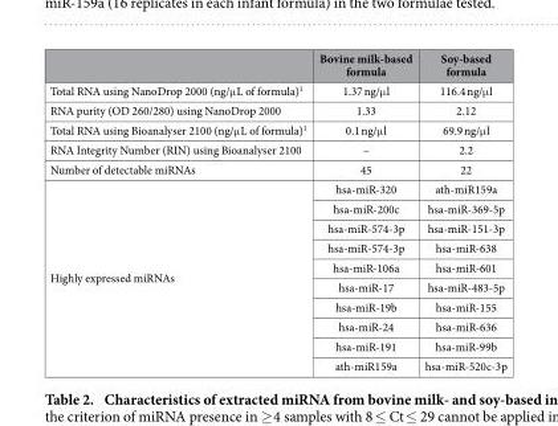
<table><thead><tr><td></td><td>Bovine milk-based formula</td><td>Soy-based formula</td></tr></thead><tbody><tr><td>Total RNA using NanoDrop 2000 (ng/μ L of formula)<sup>1</sup></td><td>1.37 ng/μ l</td><td>116.4 ng/μ l</td></tr><tr><td>RNA purity (OD 260/280) using NanoDrop 2000</td><td>1.33</td><td>2.12</td></tr><tr><td>Total RNA using Bioanalyser 2100 (ng/μ L of formula)<sup>1</sup></td><td>0.1 ng/μ l</td><td>69.9 ng/μ l</td></tr><tr><td>RNA Integrity Number (RIN) using Bioanalyser 2100</td><td>–</td><td>2.2</td></tr><tr><td>Number of detectable miRNAs</td><td>45</td><td>22</td></tr><tr><td rowspan="10">Highly expressed miRNAs</td><td>hsa-miR-320</td><td>ath-miR159a</td></tr><tr><td>hsa-miR-200c</td><td>hsa-miR-369-5p</td></tr><tr><td>hsa-miR-574-3p</td><td>hsa-miR-151-3p</td></tr><tr><td>hsa-miR-574-3p</td><td>hsa-miR-638</td></tr><tr><td>hsa-miR-106a</td><td>hsa-miR-601</td></tr><tr><td>hsa-miR-17</td><td>hsa-miR-483-5p</td></tr><tr><td>hsa-miR-19b</td><td>hsa-miR-155</td></tr><tr><td>hsa-miR-24</td><td>hsa-miR-636</td></tr><tr><td>hsa-miR-191</td><td>hsa-miR-99b</td></tr><tr><td>ath-miR159a</td><td>hsa-miR-520c-3p</td></tr></tbody></table>